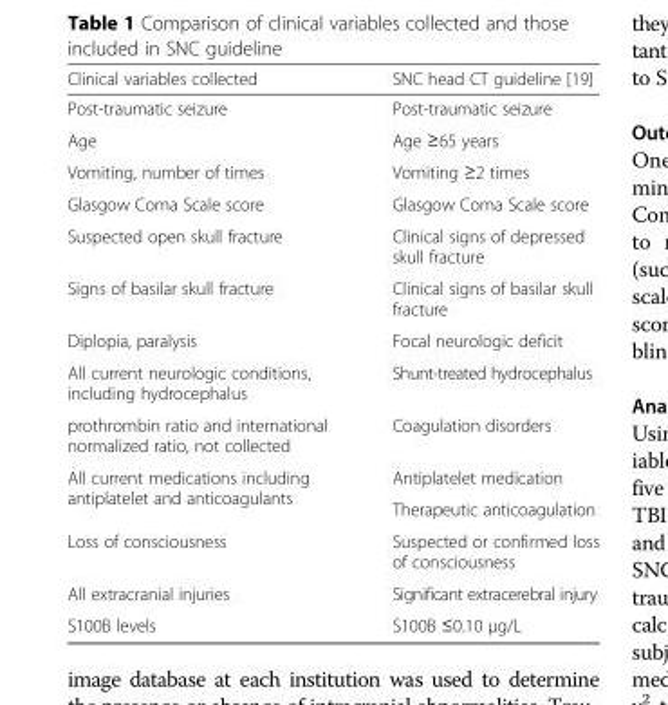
<table><thead><tr><td>Clinical variables collected</td><td>SNC head CT guideline [19]</td></tr></thead><tbody><tr><td>Post-traumatic seizure</td><td>Post-traumatic seizure</td></tr><tr><td>Age</td><td>Age ≥65 years</td></tr><tr><td>Vomiting, number of times</td><td>Vomiting ≥2 times</td></tr><tr><td>Glasgow Coma Scale score</td><td>Glasgow Coma Scale score</td></tr><tr><td>Suspected open skull fracture</td><td>Clinical signs of depressed skull fracture</td></tr><tr><td>Signs of basilar skull fracture</td><td>Clinical signs of basilar skull fracture</td></tr><tr><td>Diplopia, paralysis</td><td>Focal neurologic deficit</td></tr><tr><td>All current neurologic conditions, including hydrocephalus</td><td>Shunt-treated hydrocephalus</td></tr><tr><td>prothrombin ratio and international normalized ratio, not collected</td><td>Coagulation disorders</td></tr><tr><td rowspan="2">All current medications including antiplatelet and anticoagulants</td><td>Antiplatelet medication</td></tr><tr><td>Therapeutic anticoagulation</td></tr><tr><td>Loss of consciousness</td><td>Suspected or confirmed loss of consciousness</td></tr><tr><td>All extracranial injuries</td><td>Significant extracerebral injury</td></tr><tr><td>S100B levels</td><td>S100B ≤0.10 μg/L</td></tr></tbody></table>